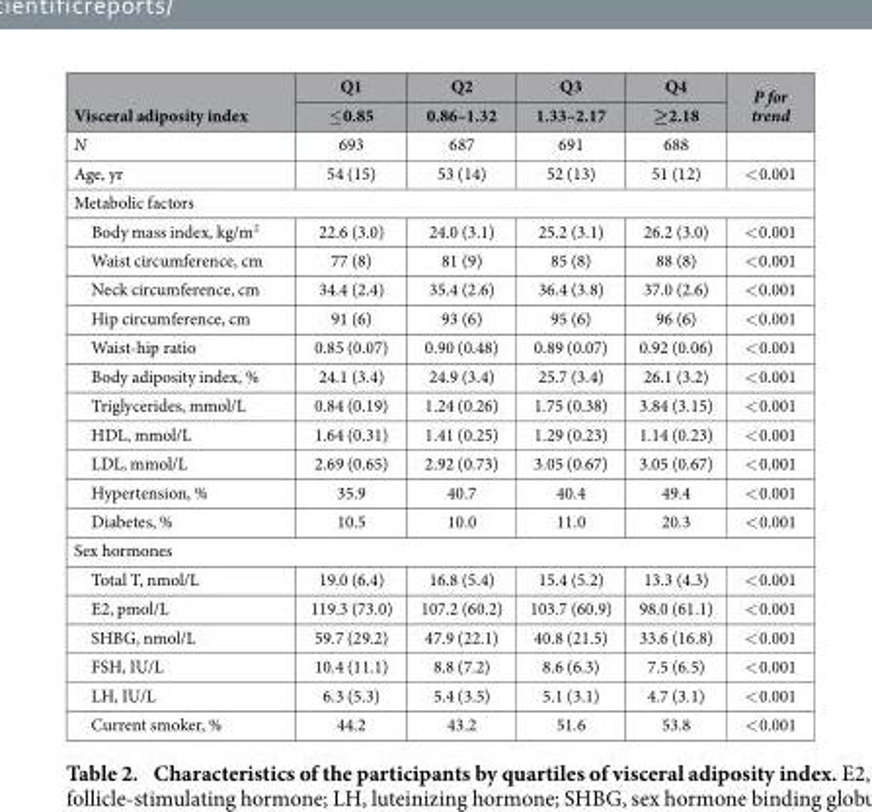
<table><thead><tr><td rowspan="2">Visceral adiposity index</td><td rowspan="2">Q1 ≤ 0.85</td><td rowspan="2">Q2 0.86–1.32</td><td rowspan="2">Q3 1.33–2.17</td><td rowspan="2">Q4 ≥2.18</td><td rowspan="2">P for trend</td></tr><tr></tr></thead><tbody><tr><td>N</td><td>693</td><td>687</td><td>691</td><td>688</td><td></td></tr><tr><td>Age, yr</td><td>54 (15)</td><td>53 (14)</td><td>52 (13)</td><td>51 (12)</td><td>&lt; 0.001</td></tr><tr><td colspan="6">Metabolic factors</td></tr><tr><td>Body mass index, kg/m<sup>2</sup></td><td>22.6 (3.0)</td><td>24.0 (3.1)</td><td>25.2 (3.1)</td><td>26.2 (3.0)</td><td>&lt; 0.001</td></tr><tr><td>Waist circumference, cm</td><td>77 (8)</td><td>81 (9)</td><td>85 (8)</td><td>88 (8)</td><td>&lt; 0.001</td></tr><tr><td>Neck circumference, cm</td><td>34.4 (2.4)</td><td>35.4 (2.6)</td><td>36.4 (3.8)</td><td>37.0 (2.6)</td><td>&lt; 0.001</td></tr><tr><td>Hip circumference, cm</td><td>91 (6)</td><td>93 (6)</td><td>95 (6)</td><td>96 (6)</td><td>&lt; 0.001</td></tr><tr><td>Waist-hip ratio</td><td>0.85 (0.07)</td><td>0.90 (0.48)</td><td>0.89 (0.07)</td><td>0.92 (0.06)</td><td>&lt; 0.001</td></tr><tr><td>Body adiposity index, %</td><td>24.1 (3.4)</td><td>24.9 (3.4)</td><td>25.7 (3.4)</td><td>26.1 (3.2)</td><td>&lt; 0.001</td></tr><tr><td>Triglycerides, mmol/L</td><td>0.84 (0.19)</td><td>1.24 (0.26)</td><td>1.75 (0.38)</td><td>3.84 (3.15)</td><td>&lt; 0.001</td></tr><tr><td>HDL, mmol/L</td><td>1.64 (0.31)</td><td>1.41 (0.25)</td><td>1.29 (0.23)</td><td>1.14 (0.23)</td><td>&lt; 0.001</td></tr><tr><td>LDL, mmol/L</td><td>2.69 (0.65)</td><td>2.92 (0.73)</td><td>3.05 (0.67)</td><td>3.05 (0.67)</td><td>&lt; 0.001</td></tr><tr><td>Hypertension, %</td><td>35.9</td><td>40.7</td><td>40.4</td><td>49.4</td><td>&lt; 0.001</td></tr><tr><td>Diabetes, %</td><td>10.5</td><td>10.0</td><td>11.0</td><td>20.3</td><td>&lt; 0.001</td></tr><tr><td colspan="6">Sex hormones</td></tr><tr><td>Total T, nmol/L</td><td>19.0 (6.4)</td><td>16.8 (5.4)</td><td>15.4 (5.2)</td><td>13.3 (4.3)</td><td>&lt; 0.001</td></tr><tr><td>E2, pmol/L</td><td>119.3 (73.0)</td><td>107.2 (60.2)</td><td>103.7 (60.9)</td><td>98.0 (61.1)</td><td>&lt; 0.001</td></tr><tr><td>SHBG, nmol/L</td><td>59.7 (29.2)</td><td>47.9 (22.1)</td><td>40.8 (21.5)</td><td>33.6 (16.8)</td><td>&lt; 0.001</td></tr><tr><td>FSH, IU/L</td><td>10.4 (11.1)</td><td>8.8 (7.2)</td><td>8.6 (6.3)</td><td>7.5 (6.5)</td><td>&lt; 0.001</td></tr><tr><td>LH, IU/L</td><td>6.3 (5.3)</td><td>5.4 (3.5)</td><td>5.1 (3.1)</td><td>4.7 (3.1)</td><td>&lt; 0.001</td></tr><tr><td>Current smoker, %</td><td>44.2</td><td>43.2</td><td>51.6</td><td>53.8</td><td>&lt; 0.001</td></tr></tbody></table>